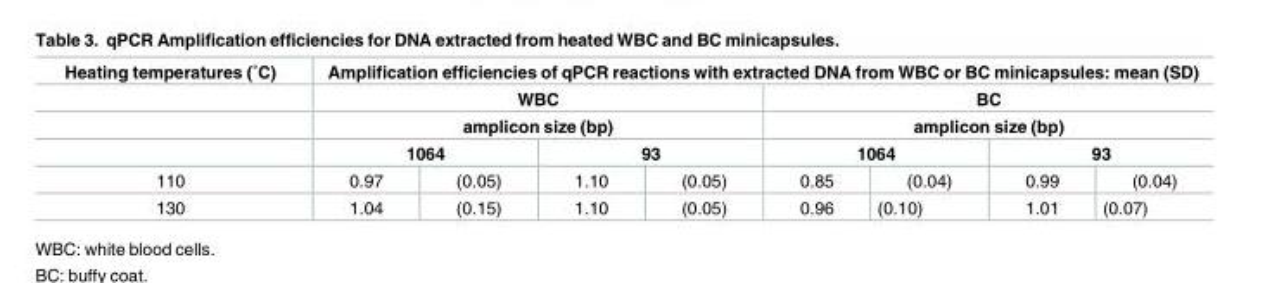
<table><thead><tr><td rowspan="5">Heating temperatures (˚C) 110</td><td colspan="8">Amplification efficiencies of qPCR reactions with extracted DNA from WBC or BC minicapsules: mean (SD)</td></tr><tr><td rowspan="2" colspan="4">WBC amplicon size (bp)</td><td rowspan="2" colspan="4">BC amplicon size (bp)</td></tr><tr></tr><tr><td colspan="2">1064</td><td colspan="2">93</td><td colspan="2">1064</td><td colspan="2">93</td></tr><tr><td>0.97</td><td>(0.05)</td><td>1.10</td><td>(0.05)</td><td>0.85</td><td>(0.04)</td><td>0.99</td><td>(0.04)</td></tr></thead><tbody><tr><td>130</td><td>1.04</td><td>(0.15)</td><td>1.10</td><td>(0.05)</td><td>0.96</td><td>(0.10)</td><td>1.01</td><td>(0.07)</td></tr></tbody></table>